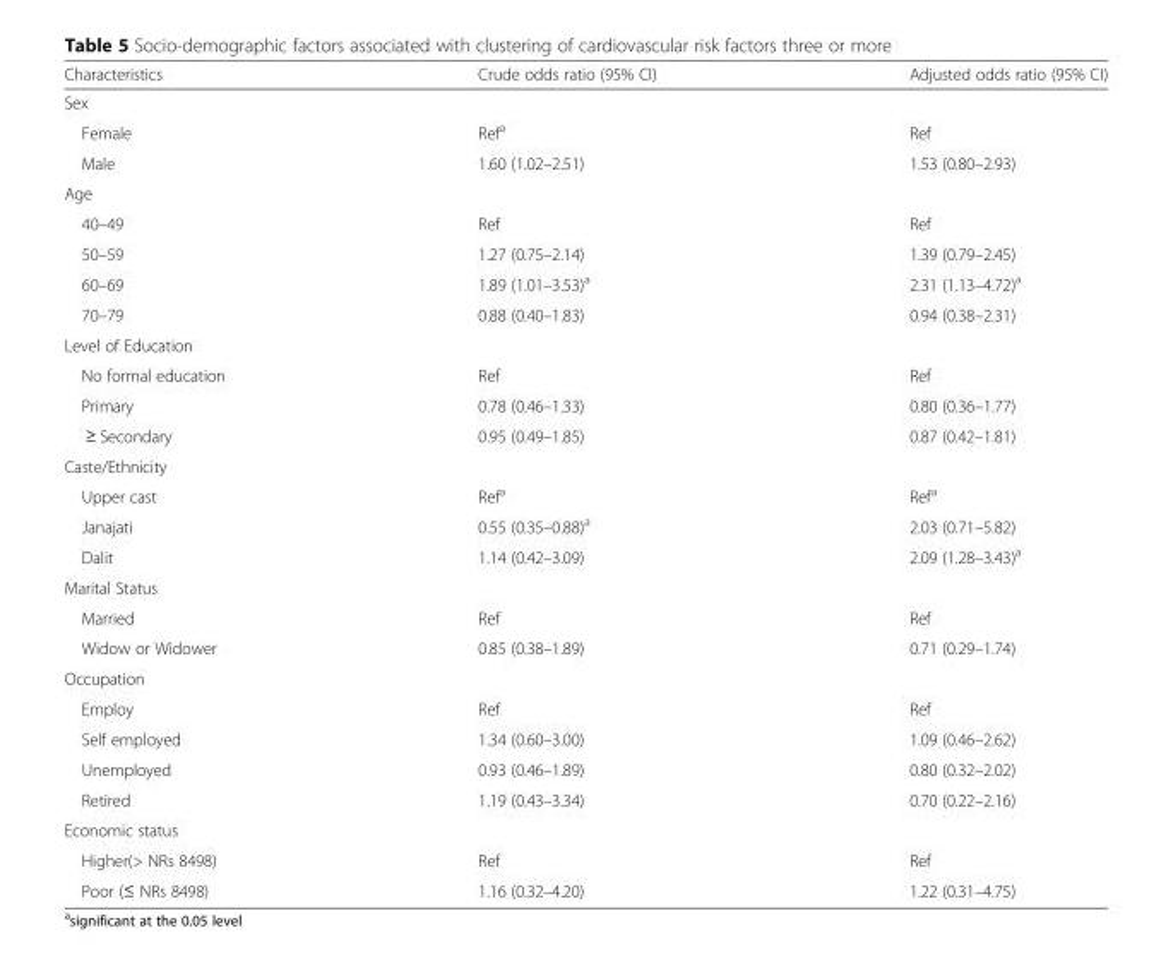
<table><thead><tr><td>Characteristics</td><td>Crude odds ratio (95% CI)</td><td>Adjusted odds ratio (95% CI)</td></tr></thead><tbody><tr><td colspan="3">Sex</td></tr><tr><td>Female</td><td>Ref<sup>a</sup></td><td>Ref</td></tr><tr><td>Male</td><td>1.60 (1.02–2.51)</td><td>1.53 (0.80–2.93)</td></tr><tr><td colspan="3">Age</td></tr><tr><td>40–49</td><td>Ref</td><td>Ref</td></tr><tr><td>50–59</td><td>1.27 (0.75–2.14)</td><td>1.39 (0.79–2.45)</td></tr><tr><td>60–69</td><td>1.89 (1.01–3.53)<sup>a</sup></td><td>2.31 (1.13–4.72)<sup>a</sup></td></tr><tr><td>70–79</td><td>0.88 (0.40–1.83)</td><td>0.94 (0.38–2.31)</td></tr><tr><td colspan="3">Level of Education</td></tr><tr><td>No formal education</td><td>Ref</td><td>Ref</td></tr><tr><td>Primary</td><td>0.78 (0.46–1.33)</td><td>0.80 (0.36–1.77)</td></tr><tr><td>≥ Secondary</td><td>0.95 (0.49–1.85)</td><td>0.87 (0.42–1.81)</td></tr><tr><td colspan="3">Caste/Ethnicity</td></tr><tr><td>Upper cast</td><td>Ref<sup>a</sup></td><td>Ref<sup>a</sup></td></tr><tr><td>Janajati</td><td>0.55 (0.35–0.88)<sup>a</sup></td><td>2.03 (0.71–5.82)</td></tr><tr><td>Dalit</td><td>1.14 (0.42–3.09)</td><td>2.09 (1.28–3.43)<sup>a</sup></td></tr><tr><td colspan="3">Marital Status</td></tr><tr><td>Married</td><td>Ref</td><td>Ref</td></tr><tr><td>Widow or Widower</td><td>0.85 (0.38–1.89)</td><td>0.71 (0.29–1.74)</td></tr><tr><td colspan="3">Occupation</td></tr><tr><td>Employ</td><td>Ref</td><td>Ref</td></tr><tr><td>Self employed</td><td>1.34 (0.60–3.00)</td><td>1.09 (0.46–2.62)</td></tr><tr><td>Unemployed</td><td>0.93 (0.46–1.89)</td><td>0.80 (0.32–2.02)</td></tr><tr><td>Retired</td><td>1.19 (0.43–3.34)</td><td>0.70 (0.22–2.16)</td></tr><tr><td colspan="3">Economic status</td></tr><tr><td>Higher(&gt; NRs 8498)</td><td>Ref</td><td>Ref</td></tr><tr><td>Poor (≤ NRs 8498)</td><td>1.16 (0.32–4.20)</td><td>1.22 (0.31–4.75)</td></tr></tbody></table>